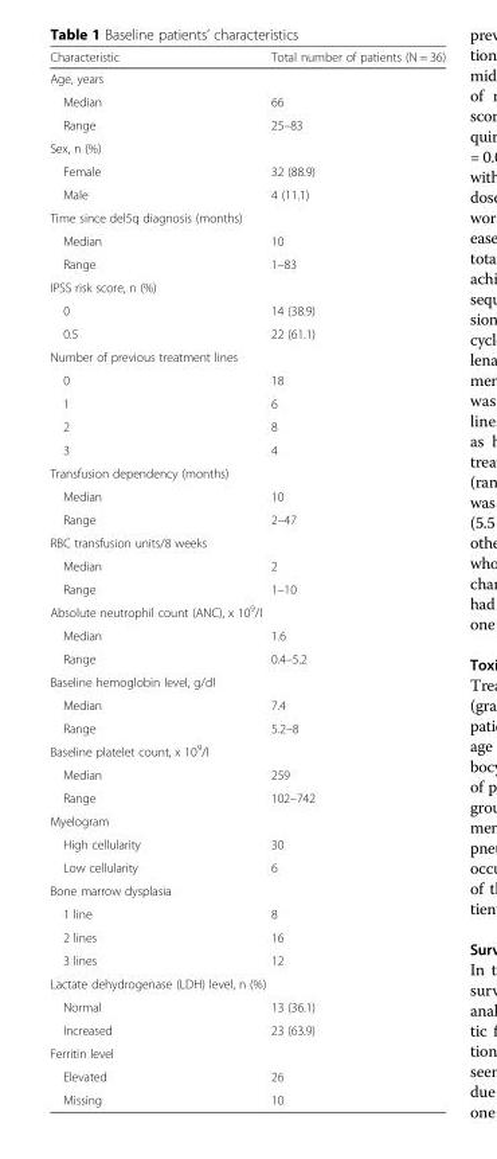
<table><thead><tr><td>Characteristic</td><td>Total number of patients (N = 36)</td></tr></thead><tbody><tr><td colspan="2">Age, years</td></tr><tr><td>Median</td><td>66</td></tr><tr><td>Range</td><td>25–83</td></tr><tr><td colspan="2">Sex, n (%)</td></tr><tr><td>Female</td><td>32 (88.9)</td></tr><tr><td>Male</td><td>4 (11.1)</td></tr><tr><td colspan="2">Time since del5q diagnosis (months)</td></tr><tr><td>Median</td><td>10</td></tr><tr><td>Range</td><td>1–83</td></tr><tr><td colspan="2">IPSS risk score, n (%)</td></tr><tr><td>0</td><td>14 (38.9)</td></tr><tr><td>0.5</td><td>22 (61.1)</td></tr><tr><td colspan="2">Number of previous treatment lines</td></tr><tr><td>0</td><td>18</td></tr><tr><td>1</td><td>6</td></tr><tr><td>2</td><td>8</td></tr><tr><td>3</td><td>4</td></tr><tr><td colspan="2">Transfusion dependency (months)</td></tr><tr><td>Median</td><td>10</td></tr><tr><td>Range</td><td>2–47</td></tr><tr><td colspan="2">RBC transfusion units/8 weeks</td></tr><tr><td>Median</td><td>2</td></tr><tr><td>Range</td><td>1–10</td></tr><tr><td colspan="2">Absolute neutrophil count (ANC), x 10<sup>9</sup>/l</td></tr><tr><td>Median</td><td>1.6</td></tr><tr><td>Range</td><td>0.4–5.2</td></tr><tr><td colspan="2">Baseline hemoglobin level, g/dl</td></tr><tr><td>Median</td><td>7.4</td></tr><tr><td>Range</td><td>5.2–8</td></tr><tr><td colspan="2">Baseline platelet count, x 10<sup>9</sup>/l</td></tr><tr><td>Median</td><td>259</td></tr><tr><td>Range</td><td>102–742</td></tr><tr><td colspan="2">Myelogram</td></tr><tr><td>High cellularity</td><td>30</td></tr><tr><td>Low cellularity</td><td>6</td></tr><tr><td colspan="2">Bone marrow dysplasia</td></tr><tr><td>1 line</td><td>8</td></tr><tr><td>2 lines</td><td>16</td></tr><tr><td>3 lines</td><td>12</td></tr><tr><td colspan="2">Lactate dehydrogenase (LDH) level, n (%)</td></tr><tr><td>Normal</td><td>13 (36.1)</td></tr><tr><td>Increased</td><td>23 (63.9)</td></tr><tr><td colspan="2">Ferritin level</td></tr><tr><td>Elevated</td><td>26</td></tr><tr><td>Missing</td><td>10</td></tr></tbody></table>